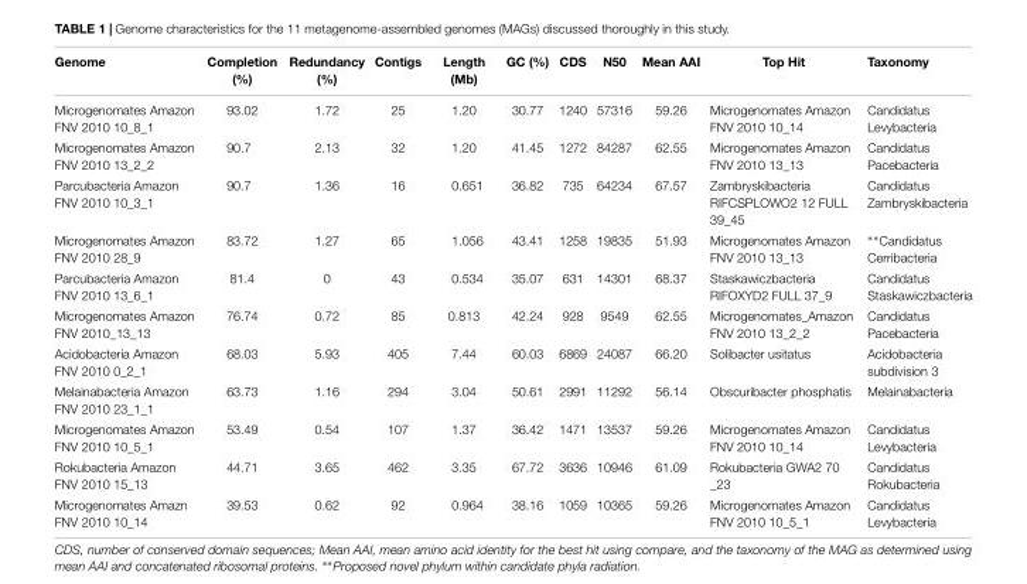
<table><thead><tr><td>Genome</td><td>Completion (%)</td><td>Redundancy (%)</td><td>Contigs</td><td>Length (Mb)</td><td>GC (%)</td><td>CDS</td><td>N50</td><td>Mean AAI</td><td>Top Hit</td><td>Taxonomy</td></tr></thead><tbody><tr><td>Microgenomates Amazon FNV 2010 10_8_1</td><td>93.02</td><td>1.72</td><td>25</td><td>1.20</td><td>30.77</td><td>1240</td><td>57316</td><td>59.26</td><td>Microgenomates Amazon FNV 2010 10_14</td><td>Candidatus Levybacteria</td></tr><tr><td>Microgenomates Amazon FNV 2010 13_2_2</td><td>90.7</td><td>2.13</td><td>32</td><td>1.20</td><td>41.45</td><td>1272</td><td>84287</td><td>62.55</td><td>Microgenomates Amazon FNV 2010 13_13</td><td>Candidatus Pacebacteria</td></tr><tr><td>Parcubacteria Amazon FNV 2010 10_3_1</td><td>90.7</td><td>1.36</td><td>16</td><td>0.651</td><td>36.82</td><td>735</td><td>64234</td><td>67.57</td><td>Zambryskibacteria RIFCSPLOWO2 12 FULL 39_45</td><td>Candidatus Zambryskibacteria</td></tr><tr><td>Microgenomates Amazon FNV 2010 28_9</td><td>83.72</td><td>1.27</td><td>65</td><td>1.056</td><td>43.41</td><td>1258</td><td>19835</td><td>51.93</td><td>Microgenomates Amazon FNV 2010 13_13</td><td>∗∗Candidatus Cerribacteria</td></tr><tr><td>Parcubacteria Amazon FNV 2010 13_6_1</td><td>81.4</td><td>0</td><td>43</td><td>0.534</td><td>35.07</td><td>631</td><td>14301</td><td>68.37</td><td>Staskawiczbacteria RIFOXYD2 FULL 37_9</td><td>Candidatus Staskawiczbacteria</td></tr><tr><td>Microgenomates Amazon FNV 2010_13_13</td><td>76.74</td><td>0.72</td><td>85</td><td>0.813</td><td>42.24</td><td>928</td><td>9549</td><td>62.55</td><td>Microgenomates_Amazon FNV 2010 13_2_2</td><td>Candidatus Pacebacteria</td></tr><tr><td>Acidobacteria Amazon FNV 2010 0_2_1</td><td>68.03</td><td>5.93</td><td>405</td><td>7.44</td><td>60.03</td><td>6869</td><td>24087</td><td>66.20</td><td>Solibacter usitatus</td><td>Acidobacteria subdivision 3</td></tr><tr><td>Melainabacteria Amazon FNV 2010 23_1_1</td><td>63.73</td><td>1.16</td><td>294</td><td>3.04</td><td>50.61</td><td>2991</td><td>11292</td><td>56.14</td><td>Obscuribacter phosphatis</td><td>Melainabacteria</td></tr><tr><td>Microgenomates Amazon FNV 2010 10_5_1</td><td>53.49</td><td>0.54</td><td>107</td><td>1.37</td><td>36.42</td><td>1471</td><td>13537</td><td>59.26</td><td>Microgenomates Amazon FNV 2010 10_14</td><td>Candidatus Levybacteria</td></tr><tr><td>Rokubacteria Amazon FNV 2010 15_13</td><td>44.71</td><td>3.65</td><td>462</td><td>3.35</td><td>67.72</td><td>3636</td><td>10946</td><td>61.09</td><td>Rokubacteria GWA2 70 _23</td><td>Candidatus Rokubacteria</td></tr><tr><td>Microgenomates Amazn FNV 2010 10_14</td><td>39.53</td><td>0.62</td><td>92</td><td>0.964</td><td>38.16</td><td>1059</td><td>10365</td><td>59.26</td><td>Microgenomates Amazon FNV 2010 10_5_1</td><td>Candidatus Levybacteria</td></tr></tbody></table>